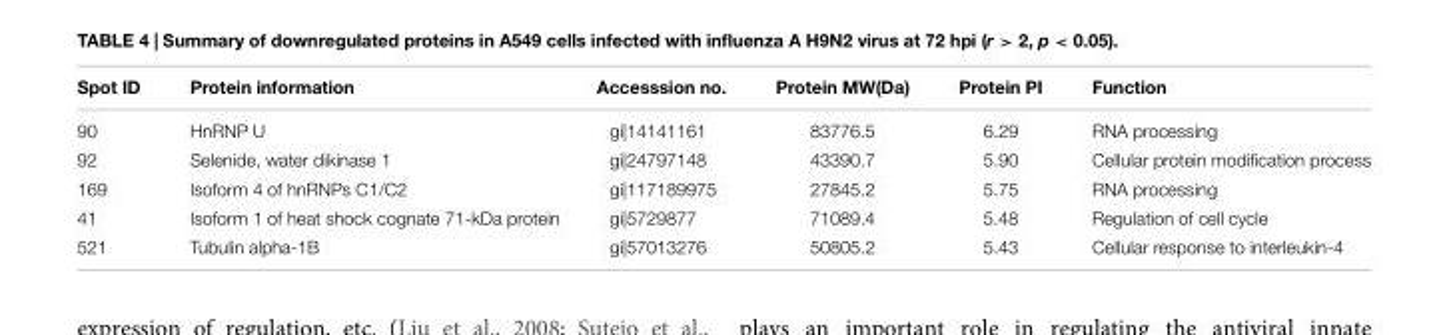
<table><thead><tr><td>Spot ID</td><td>Protein information</td><td>Accesssion no.</td><td>Protein MW(Da)</td><td>Protein PI</td><td>Function</td></tr></thead><tbody><tr><td>90</td><td>HnRNP U</td><td>gi|14141161</td><td>83776.5</td><td>6.29</td><td>RNA processing</td></tr><tr><td>92</td><td>Selenide, water dikinase 1</td><td>gi|24797148</td><td>43390.7</td><td>5.90</td><td>Cellular protein modification process</td></tr><tr><td>169</td><td>Isoform 4 of hnRNPs C1/C2</td><td>gi|117189975</td><td>27845.2</td><td>5.75</td><td>RNA processing</td></tr><tr><td>41</td><td>Isoform 1 of heat shock cognate 71-kDa protein</td><td>gi|5729877</td><td>71089.4</td><td>5.48</td><td>Regulation of cell cycle</td></tr><tr><td>521</td><td>Tubulin alpha-1B</td><td>gi|57013276</td><td>50805.2</td><td>5.43</td><td>Cellular response to interleukin-4</td></tr></tbody></table>